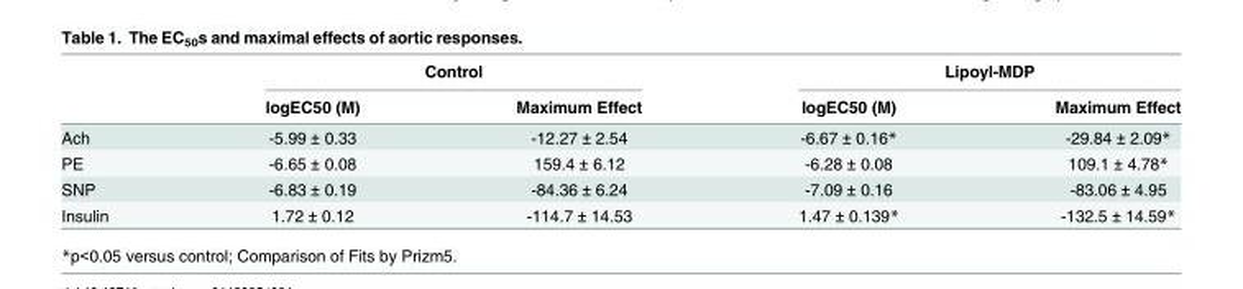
<table><thead><tr><td rowspan="2"></td><td colspan="2">Control</td><td colspan="2">Lipoyl-MDP</td></tr><tr><td>logEC50 (M)</td><td>Maximum Effect</td><td>logEC50 (M)</td><td>Maximum Effect</td></tr></thead><tbody><tr><td>Ach</td><td>-5.99 ± 0.33</td><td>-12.27 ± 2.54</td><td>-6.67 ± 0.16*</td><td>-29.84 ± 2.09*</td></tr><tr><td>PE</td><td>-6.65 ± 0.08</td><td>159.4 ± 6.12</td><td>-6.28 ± 0.08</td><td>109.1 ± 4.78*</td></tr><tr><td>SNP</td><td>-6.83 ± 0.19</td><td>-84.36 ± 6.24</td><td>-7.09 ± 0.16</td><td>-83.06 ± 4.95</td></tr><tr><td>Insulin</td><td>1.72 ± 0.12</td><td>-114.7 ± 14.53</td><td>1.47 ± 0.139*</td><td>-132.5 ± 14.59*</td></tr></tbody></table>